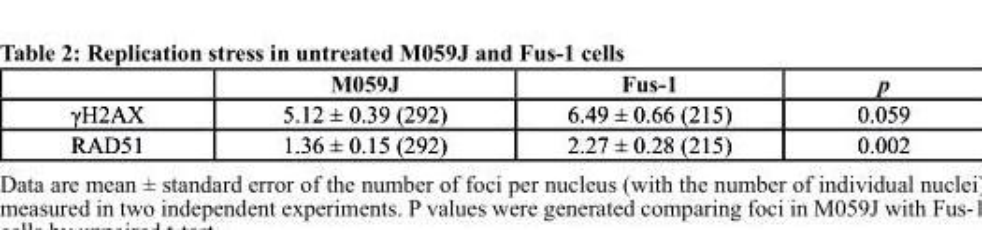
<table><thead><tr><td></td><td>M059J</td><td>Fus-1</td><td>p</td></tr></thead><tbody><tr><td>γH2AX</td><td>5.12 ± 0.39 (292)</td><td>6.49 ± 0.66 (215)</td><td>0.059</td></tr><tr><td>RAD51</td><td>1.36 ± 0.15 (292)</td><td>2.27 ± 0.28 (215)</td><td>0.002</td></tr></tbody></table>